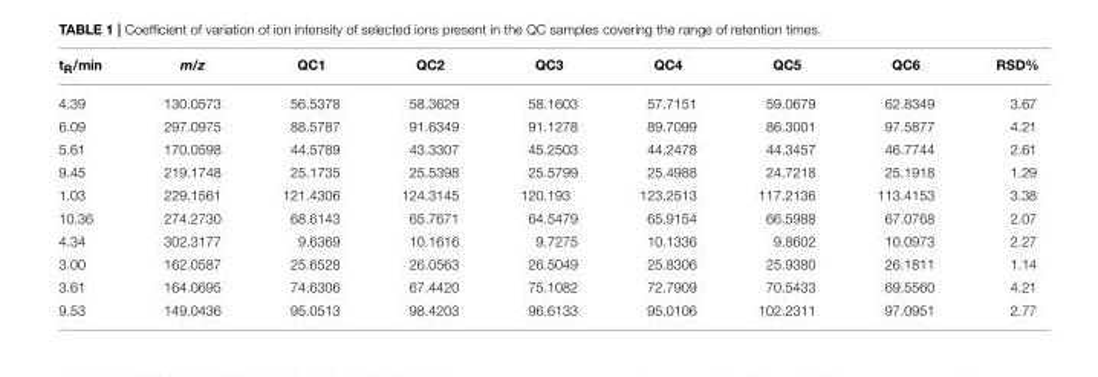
<table><thead><tr><td>t<sub>R</sub>/min</td><td>m/z</td><td>QC1</td><td>QC2</td><td>QC3</td><td>QC4</td><td>QC5</td><td>QC6</td><td>RSD%</td></tr></thead><tbody><tr><td>4.39</td><td>130.0573</td><td>56.5378</td><td>58.3629</td><td>58.1603</td><td>57.7151</td><td>59.0679</td><td>62.8349</td><td>3.67</td></tr><tr><td>6.09</td><td>297.0975</td><td>88.5787</td><td>91.6349</td><td>91.1278</td><td>89.7099</td><td>86.3001</td><td>97.5877</td><td>4.21</td></tr><tr><td>5.61</td><td>170.0598</td><td>44.5789</td><td>43.3307</td><td>45.2503</td><td>44.2478</td><td>44.3457</td><td>46.7744</td><td>2.61</td></tr><tr><td>9.45</td><td>219.1748</td><td>25.1735</td><td>25.5398</td><td>25.5799</td><td>25.4988</td><td>24.7218</td><td>25.1918</td><td>1.29</td></tr><tr><td>1.03</td><td>229.1561</td><td>121.4306</td><td>124.3145</td><td>120.193</td><td>123.2513</td><td>117.2136</td><td>113.4153</td><td>3.38</td></tr><tr><td>10.36</td><td>274.2730</td><td>68.6143</td><td>65.7671</td><td>64.5479</td><td>65.9154</td><td>66.5988</td><td>67.0768</td><td>2.07</td></tr><tr><td>4.34</td><td>302.3177</td><td>9.6369</td><td>10.1616</td><td>9.7275</td><td>10.1336</td><td>9.8602</td><td>10.0973</td><td>2.27</td></tr><tr><td>3.00</td><td>162.0587</td><td>25.6528</td><td>26.0563</td><td>26.5049</td><td>25.8306</td><td>25.9380</td><td>26.1811</td><td>1.14</td></tr><tr><td>3.61</td><td>164.0695</td><td>74.6306</td><td>67.4420</td><td>75.1082</td><td>72.7909</td><td>70.5433</td><td>69.5560</td><td>4.21</td></tr><tr><td>9.53</td><td>149.0436</td><td>95.0513</td><td>98.4203</td><td>96.6133</td><td>95.0106</td><td>102.2311</td><td>97.0951</td><td>2.77</td></tr></tbody></table>